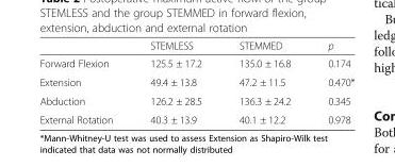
<table><thead><tr><td></td><td>STEMLESS</td><td>STEMMED</td><td>p</td></tr></thead><tbody><tr><td>Forward Flexion</td><td>125.5 ± 17.2</td><td>135.0 ± 16.8</td><td>0.174</td></tr><tr><td>Extension</td><td>49.4 ± 13.8</td><td>47.2 ± 11.5</td><td>0.470*</td></tr><tr><td>Abduction</td><td>126.2 ± 28.5</td><td>136.3 ± 24.2</td><td>0.345</td></tr><tr><td>External Rotation</td><td>40.3 ± 13.9</td><td>40.1 ± 12.2</td><td>0.978</td></tr></tbody></table>